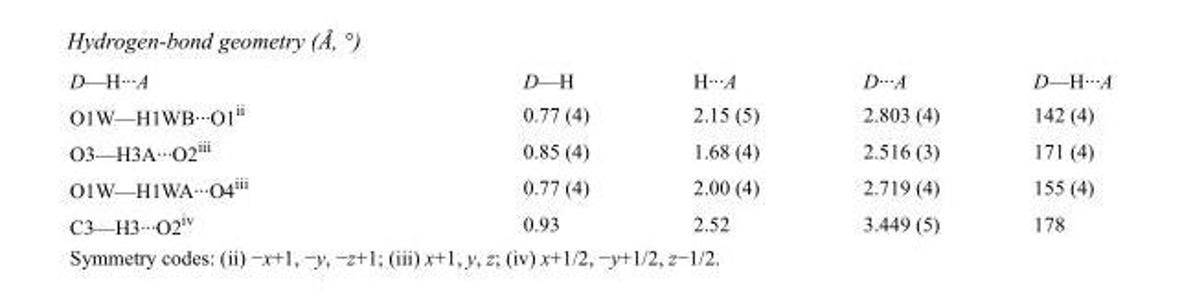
<table><tbody><tr><td>D—H···A</td><td>D—H</td><td>H···A</td><td>D···A</td><td>D—H···A</td></tr><tr><td>O1W—H1WB···O1<sup>ii</sup></td><td>0.77 (4)</td><td>2.15 (5)</td><td>2.803 (4)</td><td>142 (4)</td></tr><tr><td>O3—H3A···O2<sup>iii</sup></td><td>0.85 (4)</td><td>1.68 (4)</td><td>2.516 (3)</td><td>171 (4)</td></tr><tr><td>O1W—H1WA···O4<sup>iii</sup></td><td>0.77 (4)</td><td>2.00 (4)</td><td>2.719 (4)</td><td>155 (4)</td></tr><tr><td>C3—H3···O2<sup>iv</sup></td><td>0.93</td><td>2.52</td><td>3.449 (5)</td><td>178</td></tr></tbody></table>